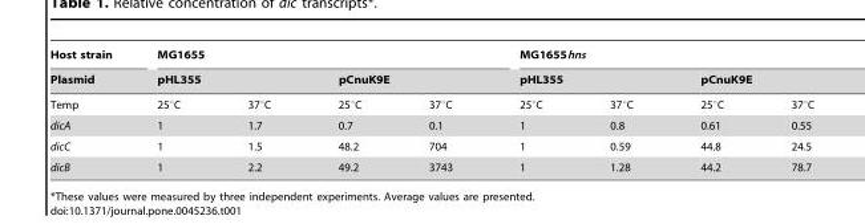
<table><thead><tr><td rowspan="3">Host strain Plasmid Temp</td><td colspan="4">MG1655</td><td colspan="4">MG1655hns</td></tr><tr><td colspan="2">pHL355</td><td colspan="2">pCnuK9E</td><td colspan="2">pHL355</td><td colspan="2">pCnuK9E</td></tr><tr><td>25°C</td><td>37°C</td><td>25°C</td><td>37°C</td><td>25°C</td><td>37°C</td><td>25°C</td><td>37°C</td></tr></thead><tbody><tr><td>dicA</td><td>1</td><td>1.7</td><td>0.7</td><td>0.1</td><td>1</td><td>0.8</td><td>0.61</td><td>0.55</td></tr><tr><td>dicC</td><td>1</td><td>1.5</td><td>48.2</td><td>704</td><td>1</td><td>0.59</td><td>44.8</td><td>24.5</td></tr><tr><td>dicB</td><td>1</td><td>2.2</td><td>49.2</td><td>3743</td><td>1</td><td>1.28</td><td>44.2</td><td>78.7</td></tr></tbody></table>